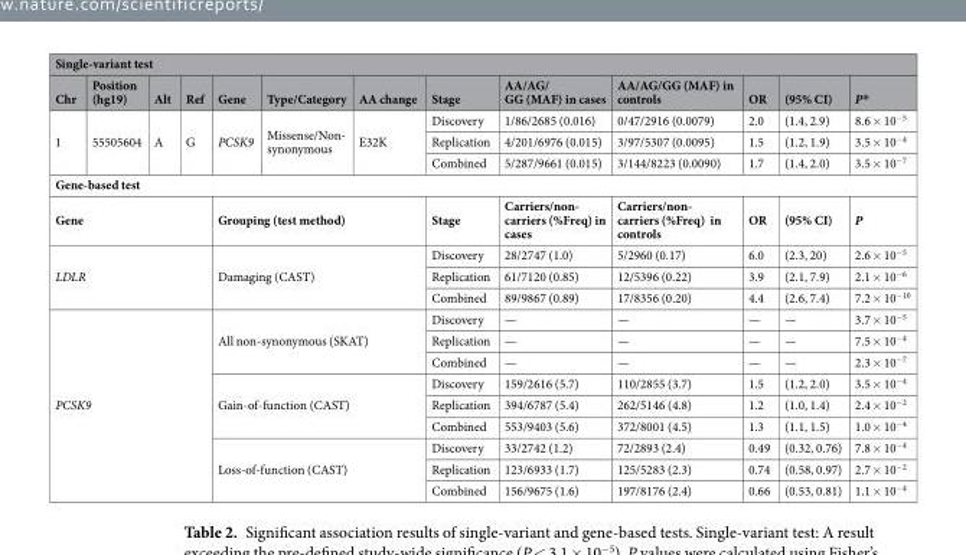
<table><thead><tr><td colspan="13">Single-variant test</td></tr><tr><td>Chr</td><td>Position (hg19)</td><td>Alt</td><td>Ref</td><td>Gene</td><td>Type/Category</td><td>AA change</td><td>Stage</td><td>AA/AG/ GG (MAF) in cases</td><td>AA/AG/GG (MAF) in controls</td><td>OR</td><td>(95% CI)</td><td>P*</td></tr></thead><tbody><tr><td rowspan="3">1</td><td rowspan="3">55505604</td><td rowspan="3">A</td><td rowspan="3">G</td><td rowspan="3">PCSK9</td><td rowspan="3">Missense/Non- synonymous</td><td rowspan="3">E32K</td><td>Discovery</td><td>1/86/2685 (0.016)</td><td>0/47/2916 (0.0079)</td><td>2.0</td><td>(1.4, 2.9)</td><td>8.6 × 10<sup>−5</sup></td></tr><tr><td>Replication</td><td>4/201/6976 (0.015)</td><td>3/97/5307 (0.0095)</td><td>1.5</td><td>(1.2, 1.9)</td><td>3.5 × 10<sup>−4</sup></td></tr><tr><td>Combined</td><td>5/287/9661 (0.015)</td><td>3/144/8223 (0.0090)</td><td>1.7</td><td>(1.4, 2.0)</td><td>3.5 × 10<sup>−7</sup></td></tr><tr><td colspan="13">Gene-based test</td></tr><tr><td colspan="4">Gene</td><td colspan="3">Grouping (test method)</td><td>Stage</td><td>Carriers/non- carriers (%Freq) in cases</td><td>Carriers/non- carriers (%Freq) in controls</td><td>OR</td><td>(95% CI)</td><td>P</td></tr><tr><td rowspan="3" colspan="4">LDLR</td><td rowspan="3" colspan="3">Damaging (CAST)</td><td>Discovery</td><td>28/2747 (1.0)</td><td>5/2960 (0.17)</td><td>6.0</td><td>(2.3, 20)</td><td>2.6 × 10<sup>−5</sup></td></tr><tr><td>Replication</td><td>61/7120 (0.85)</td><td>12/5396 (0.22)</td><td>3.9</td><td>(2.1, 7.9)</td><td>2.1 × 10<sup>−6</sup></td></tr><tr><td>Combined</td><td>89/9867 (0.89)</td><td>17/8356 (0.20)</td><td>4.4</td><td>(2.6, 7.4)</td><td>7.2 × 10<sup>−10</sup></td></tr><tr><td rowspan="9" colspan="4">PCSK9</td><td rowspan="3" colspan="3">All non-synonymous (SKAT)</td><td>Discovery</td><td>—</td><td>—</td><td>—</td><td>—</td><td>3.7 × 10<sup>−5</sup></td></tr><tr><td>Replication</td><td>—</td><td>—</td><td>—</td><td>—</td><td>7.5 × 10<sup>−4</sup></td></tr><tr><td>Combined</td><td>—</td><td>—</td><td>—</td><td>—</td><td>2.3 × 10<sup>−7</sup></td></tr><tr><td rowspan="3" colspan="3">Gain-of-function (CAST)</td><td>Discovery</td><td>159/2616 (5.7)</td><td>110/2855 (3.7)</td><td>1.5</td><td>(1.2, 2.0)</td><td>3.5 × 10<sup>−4</sup></td></tr><tr><td>Replication</td><td>394/6787 (5.4)</td><td>262/5146 (4.8)</td><td>1.2</td><td>(1.0, 1.4)</td><td>2.4 × 10<sup>−2</sup></td></tr><tr><td>Combined</td><td>553/9403 (5.6)</td><td>372/8001 (4.5)</td><td>1.3</td><td>(1.1, 1.5)</td><td>1.0 × 10<sup>−4</sup></td></tr><tr><td rowspan="3" colspan="3">Loss-of-function (CAST)</td><td>Discovery</td><td>33/2742 (1.2)</td><td>72/2893 (2.4)</td><td>0.49</td><td>(0.32, 0.76)</td><td>7.8 × 10<sup>−4</sup></td></tr><tr><td>Replication</td><td>123/6933 (1.7)</td><td>125/5283 (2.3)</td><td>0.74</td><td>(0.58, 0.97)</td><td>2.7 × 10<sup>−2</sup></td></tr><tr><td>Combined</td><td>156/9675 (1.6)</td><td>197/8176 (2.4)</td><td>0.66</td><td>(0.53, 0.81)</td><td>1.1 × 10<sup>−4</sup></td></tr></tbody></table>